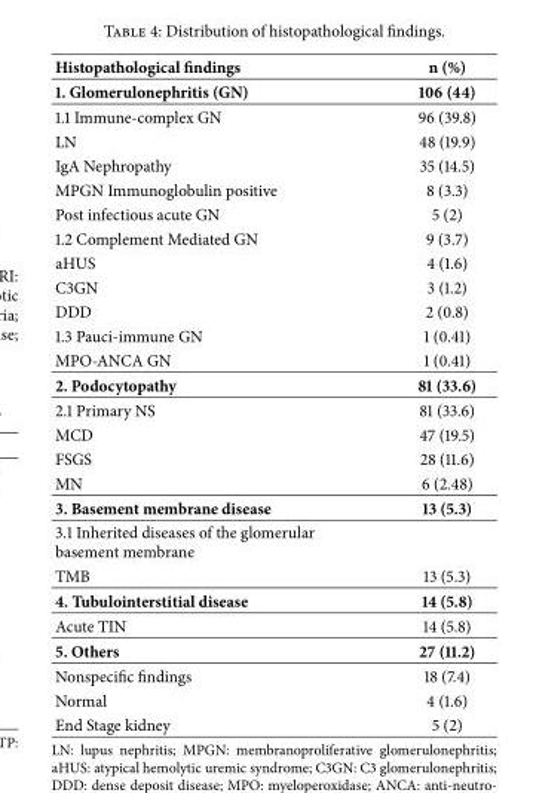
<table><thead><tr><td>Histopathological findings</td><td>n (%)</td></tr></thead><tbody><tr><td>1. Glomerulonephritis (GN)</td><td>106 (44)</td></tr><tr><td>1.1 Immune-complex GN</td><td>96 (39.8)</td></tr><tr><td>LN</td><td>48 (19.9)</td></tr><tr><td>IgA Nephropathy</td><td>35 (14.5)</td></tr><tr><td>MPGN Immunoglobulin positive</td><td>8 (3.3)</td></tr><tr><td>Post infectious acute GN</td><td>5 (2)</td></tr><tr><td>1.2 Complement Mediated GN</td><td>9 (3.7)</td></tr><tr><td>aHUS</td><td>4 (1.6)</td></tr><tr><td>C3GN</td><td>3 (1.2)</td></tr><tr><td>DDD</td><td>2 (0.8)</td></tr><tr><td>1.3 Pauci-immune GN</td><td>1 (0.41)</td></tr><tr><td>MPO-ANCA GN</td><td>1 (0.41)</td></tr><tr><td>2. Podocytopathy</td><td>81 (33.6)</td></tr><tr><td>2.1 Primary NS</td><td>81 (33.6)</td></tr><tr><td>MCD</td><td>47 (19.5)</td></tr><tr><td>FSGS</td><td>28 (11.6)</td></tr><tr><td>MN</td><td>6 (2.48)</td></tr><tr><td>3. Basement membrane disease</td><td>13 (5.3)</td></tr><tr><td colspan="2">3.1 Inherited diseases of the glomerular basement membrane</td></tr><tr><td>TMB</td><td>13 (5.3)</td></tr><tr><td>4. Tubulointerstitial disease</td><td>14 (5.8)</td></tr><tr><td>Acute TIN</td><td>14 (5.8)</td></tr><tr><td>5. Others</td><td>27 (11.2)</td></tr><tr><td>Nonspecific findings</td><td>18 (7.4)</td></tr><tr><td>Normal</td><td>4 (1.6)</td></tr><tr><td>End Stage kidney</td><td>5 (2)</td></tr></tbody></table>